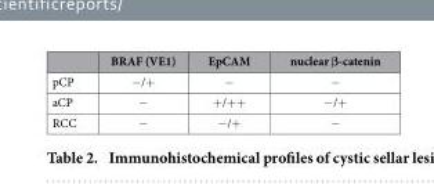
<table><thead><tr><td></td><td>BRAF (VE1)</td><td>EpCAM</td><td>nuclear β-catenin</td></tr></thead><tbody><tr><td>pCP</td><td>− /+</td><td>−</td><td>−</td></tr><tr><td>aCP</td><td>−</td><td>+ /+ +</td><td>− /+</td></tr><tr><td>RCC</td><td>−</td><td>− /+</td><td>−</td></tr></tbody></table>